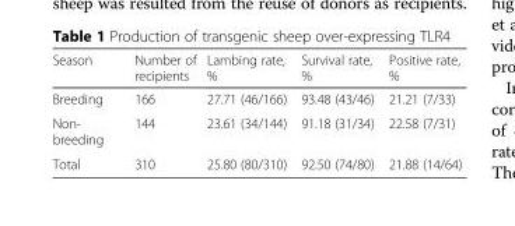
<table><thead><tr><td>Season</td><td>Number of recipients</td><td>Lambing rate, %</td><td>Survival rate, %</td><td>Positive rate, %</td></tr></thead><tbody><tr><td>Breeding</td><td>166</td><td>27.71 (46/166)</td><td>93.48 (43/46)</td><td>21.21 (7/33)</td></tr><tr><td>Non- breeding</td><td>144</td><td>23.61 (34/144)</td><td>91.18 (31/34)</td><td>22.58 (7/31)</td></tr><tr><td>Total</td><td>310</td><td>25.80 (80/310)</td><td>92.50 (74/80)</td><td>21.88 (14/64)</td></tr></tbody></table>